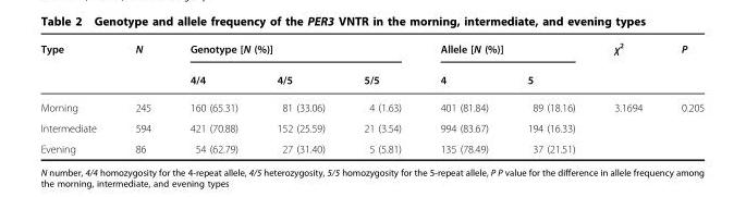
<table><thead><tr><td rowspan="2">Type</td><td rowspan="2">N</td><td colspan="3">Genotype [N (%)]</td><td colspan="2">Allele [N (%)]</td><td rowspan="2">χ<sup>2</sup></td><td rowspan="2">P</td></tr><tr><td>4/4</td><td>4/5</td><td>5/5</td><td>4</td><td>5</td></tr></thead><tbody><tr><td>Morning</td><td>245</td><td>160 (65.31)</td><td>81 (33.06)</td><td>4 (1.63)</td><td>401 (81.84)</td><td>89 (18.16)</td><td>3.1694</td><td>0.205</td></tr><tr><td>Intermediate</td><td>594</td><td>421 (70.88)</td><td>152 (25.59)</td><td>21 (3.54)</td><td>994 (83.67)</td><td>194 (16.33)</td><td></td><td></td></tr><tr><td>Evening</td><td>86</td><td>54 (62.79)</td><td>27 (31.40)</td><td>5 (5.81)</td><td>135 (78.49)</td><td>37 (21.51)</td><td></td><td></td></tr></tbody></table>